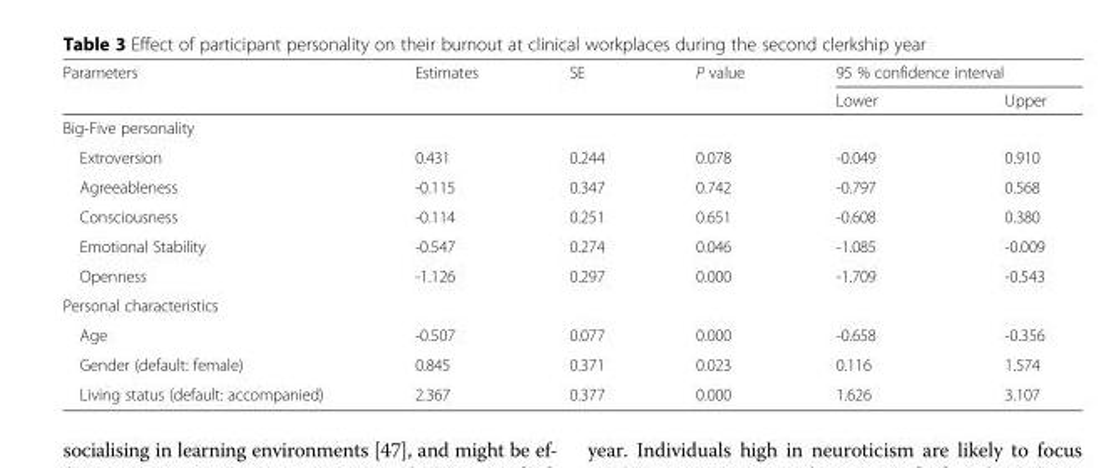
<table><thead><tr><td rowspan="2">Parameters</td><td rowspan="2">Estimates</td><td rowspan="2">SE</td><td rowspan="2">P value</td><td colspan="2">95 % confidence interval</td></tr><tr><td>Lower</td><td>Upper</td></tr></thead><tbody><tr><td colspan="6">Big-Five personality</td></tr><tr><td>Extroversion</td><td>0.431</td><td>0.244</td><td>0.078</td><td>-0.049</td><td>0.910</td></tr><tr><td>Agreeableness</td><td>-0.115</td><td>0.347</td><td>0.742</td><td>-0.797</td><td>0.568</td></tr><tr><td>Consciousness</td><td>-0.114</td><td>0.251</td><td>0.651</td><td>-0.608</td><td>0.380</td></tr><tr><td>Emotional Stability</td><td>-0.547</td><td>0.274</td><td>0.046</td><td>-1.085</td><td>-0.009</td></tr><tr><td>Openness</td><td>-1.126</td><td>0.297</td><td>0.000</td><td>-1.709</td><td>-0.543</td></tr><tr><td colspan="6">Personal characteristics</td></tr><tr><td>Age</td><td>-0.507</td><td>0.077</td><td>0.000</td><td>-0.658</td><td>-0.356</td></tr><tr><td>Gender (default: female)</td><td>0.845</td><td>0.371</td><td>0.023</td><td>0.116</td><td>1.574</td></tr><tr><td>Living status (default: accompanied)</td><td>2.367</td><td>0.377</td><td>0.000</td><td>1.626</td><td>3.107</td></tr></tbody></table>